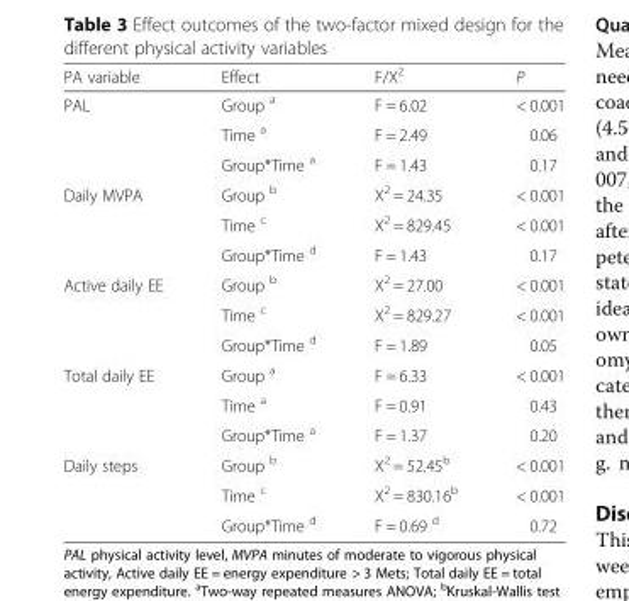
<table><thead><tr><td>PA variable</td><td>Effect</td><td>F/X<sup>2</sup></td><td>P</td></tr></thead><tbody><tr><td rowspan="3">PAL</td><td>Group <sup>a</sup></td><td>F = 6.02</td><td>&lt; 0.001</td></tr><tr><td>Time <sup>a</sup></td><td>F = 2.49</td><td>0.06</td></tr><tr><td>Group*Time <sup>a</sup></td><td>F = 1.43</td><td>0.17</td></tr><tr><td rowspan="3">Daily MVPA</td><td>Group <sup>b</sup></td><td>X<sup>2</sup> = 24.35</td><td>&lt; 0.001</td></tr><tr><td>Time <sup>c</sup></td><td>X<sup>2</sup> = 829.45</td><td>&lt; 0.001</td></tr><tr><td>Group*Time <sup>d</sup></td><td>F = 1.43</td><td>0.17</td></tr><tr><td rowspan="3">Active daily EE</td><td>Group <sup>b</sup></td><td>X<sup>2</sup> = 27.00</td><td>&lt; 0.001</td></tr><tr><td>Time <sup>c</sup></td><td>X<sup>2</sup> = 829.27</td><td>&lt; 0.001</td></tr><tr><td>Group*Time <sup>d</sup></td><td>F = 1.89</td><td>0.05</td></tr><tr><td rowspan="3">Total daily EE</td><td>Group <sup>a</sup></td><td>F = 6.33</td><td>&lt; 0.001</td></tr><tr><td>Time <sup>a</sup></td><td>F = 0.91</td><td>0.43</td></tr><tr><td>Group*Time <sup>a</sup></td><td>F = 1.37</td><td>0.20</td></tr><tr><td rowspan="3">Daily steps</td><td>Group <sup>b</sup></td><td>X<sup>2</sup> = 52.45<sup>b</sup></td><td>&lt; 0.001</td></tr><tr><td>Time <sup>c</sup></td><td>X<sup>2</sup> = 830.16<sup>b</sup></td><td>&lt; 0.001</td></tr><tr><td>Group*Time <sup>d</sup></td><td>F = 0.69 <sup>d</sup></td><td>0.72</td></tr></tbody></table>